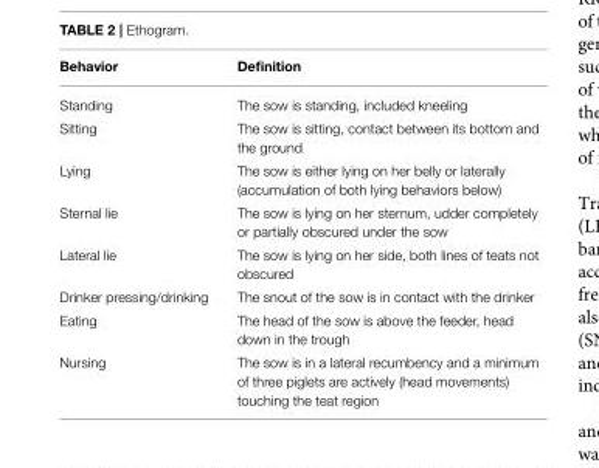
<table><thead><tr><td>Behavior</td><td>Definition</td></tr></thead><tbody><tr><td>Standing</td><td>The sow is standing, included kneeling</td></tr><tr><td>Sitting</td><td>The sow is sitting, contact between its bottom and the ground</td></tr><tr><td>Lying</td><td>The sow is either lying on her belly or laterally (accumulation of both lying behaviors below)</td></tr><tr><td>Sternal lie</td><td>The sow is lying on her sternum, udder completely or partially obscured under the sow</td></tr><tr><td>Lateral lie</td><td>The sow is lying on her side, both lines of teats not obscured</td></tr><tr><td>Drinker pressing/drinking</td><td>The snout of the sow is in contact with the drinker</td></tr><tr><td>Eating</td><td>The head of the sow is above the feeder, head down in the trough</td></tr><tr><td>Nursing</td><td>The sow is in a lateral recumbency and a minimum of three piglets are actively (head movements) touching the teat region</td></tr></tbody></table>